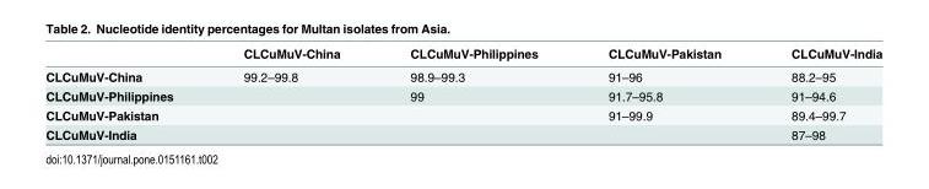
<table><thead><tr><td></td><td>CLCuMuV-China</td><td>CLCuMuV-Philippines</td><td>CLCuMuV-Pakistan</td><td>CLCuMuV-India</td></tr></thead><tbody><tr><td>CLCuMuV-China</td><td>99.2–99.8</td><td>98.9–99.3</td><td>91–96</td><td>88.2–95</td></tr><tr><td>CLCuMuV-Philippines</td><td></td><td>99</td><td>91.7–95.8</td><td>91–94.6</td></tr><tr><td>CLCuMuV-Pakistan</td><td></td><td></td><td>91–99.9</td><td>89.4–99.7</td></tr><tr><td>CLCuMuV-India</td><td></td><td></td><td></td><td>87–98</td></tr></tbody></table>